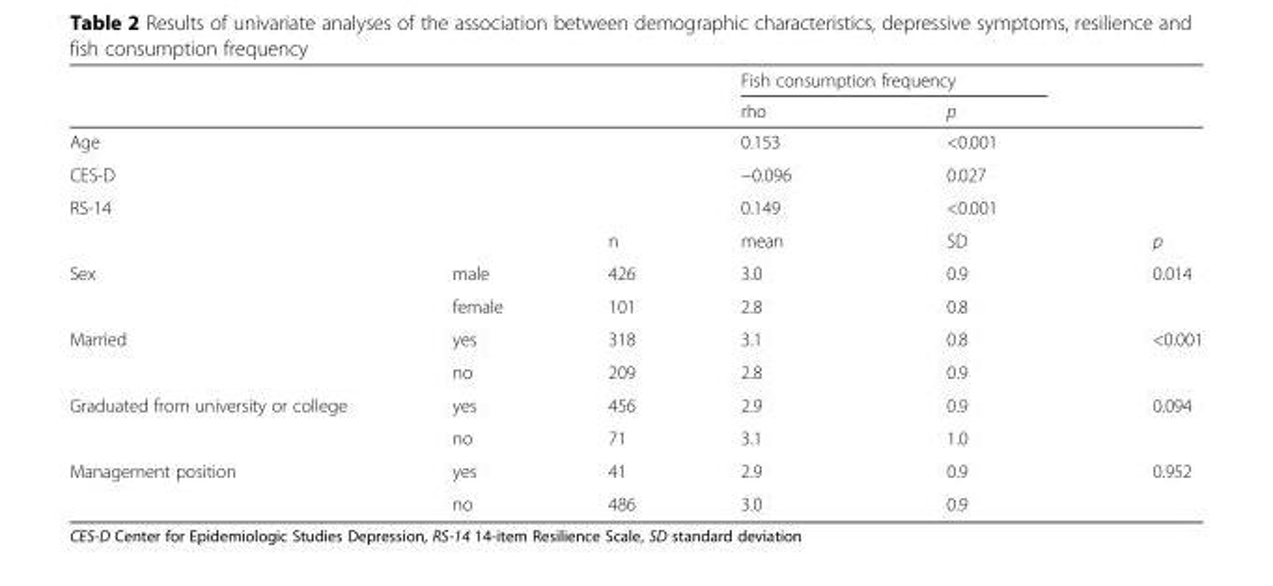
<table><thead><tr><td rowspan="2"></td><td rowspan="2"></td><td rowspan="2"></td><td colspan="2">Fish consumption frequency</td><td rowspan="2"></td></tr><tr><td>rho</td><td>p</td></tr></thead><tbody><tr><td>Age</td><td></td><td></td><td>0.153</td><td>&lt;0.001</td><td></td></tr><tr><td>CES-D</td><td></td><td></td><td>−0.096</td><td>0.027</td><td></td></tr><tr><td rowspan="2">RS-14</td><td></td><td></td><td>0.149</td><td>&lt;0.001</td><td></td></tr><tr><td></td><td>n</td><td>mean</td><td>SD</td><td>p</td></tr><tr><td rowspan="2">Sex</td><td>male</td><td>426</td><td>3.0</td><td>0.9</td><td>0.014</td></tr><tr><td>female</td><td>101</td><td>2.8</td><td>0.8</td><td></td></tr><tr><td rowspan="2">Married</td><td>yes</td><td>318</td><td>3.1</td><td>0.8</td><td>&lt;0.001</td></tr><tr><td>no</td><td>209</td><td>2.8</td><td>0.9</td><td></td></tr><tr><td rowspan="2">Graduated from university or college</td><td>yes</td><td>456</td><td>2.9</td><td>0.9</td><td>0.094</td></tr><tr><td>no</td><td>71</td><td>3.1</td><td>1.0</td><td></td></tr><tr><td rowspan="2">Management position</td><td>yes</td><td>41</td><td>2.9</td><td>0.9</td><td>0.952</td></tr><tr><td>no</td><td>486</td><td>3.0</td><td>0.9</td><td></td></tr></tbody></table>